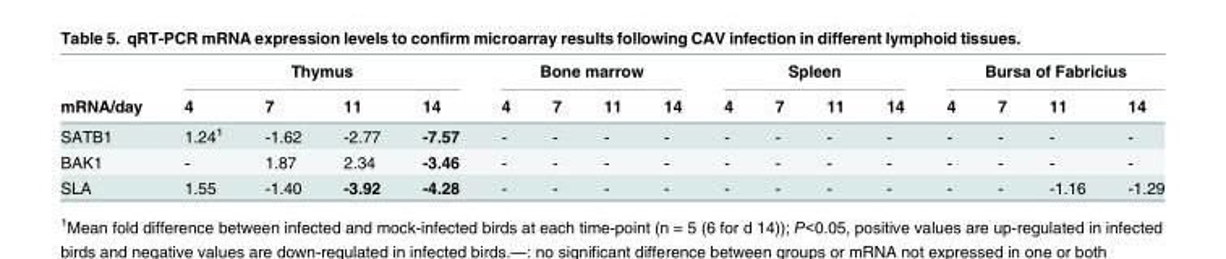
<table><thead><tr><td rowspan="2">mRNA/day</td><td colspan="4">Thymus</td><td colspan="4">Bone marrow</td><td colspan="4">Spleen</td><td colspan="4">Bursa of Fabricius</td></tr><tr><td>4</td><td>7</td><td>11</td><td>14</td><td>4</td><td>7</td><td>11</td><td>14</td><td>4</td><td>7</td><td>11</td><td>14</td><td>4</td><td>7</td><td>11</td><td>14</td></tr></thead><tbody><tr><td>SATB1</td><td>1.24<sup>1</sup></td><td>-1.62</td><td>-2.77</td><td>-7.57</td><td>-</td><td>-</td><td>-</td><td>-</td><td>-</td><td>-</td><td>-</td><td>-</td><td>-</td><td>-</td><td>-</td><td>-</td></tr><tr><td>BAK1</td><td>-</td><td>1.87</td><td>2.34</td><td>-3.46</td><td>-</td><td>-</td><td>-</td><td>-</td><td>-</td><td>-</td><td>-</td><td>-</td><td>-</td><td>-</td><td>-</td><td>-</td></tr><tr><td>SLA</td><td>1.55</td><td>-1.40</td><td>-3.92</td><td>-4.28</td><td>-</td><td>-</td><td>-</td><td>-</td><td>-</td><td>-</td><td>-</td><td>-</td><td>-</td><td>-</td><td>-1.16</td><td>-1.29</td></tr></tbody></table>